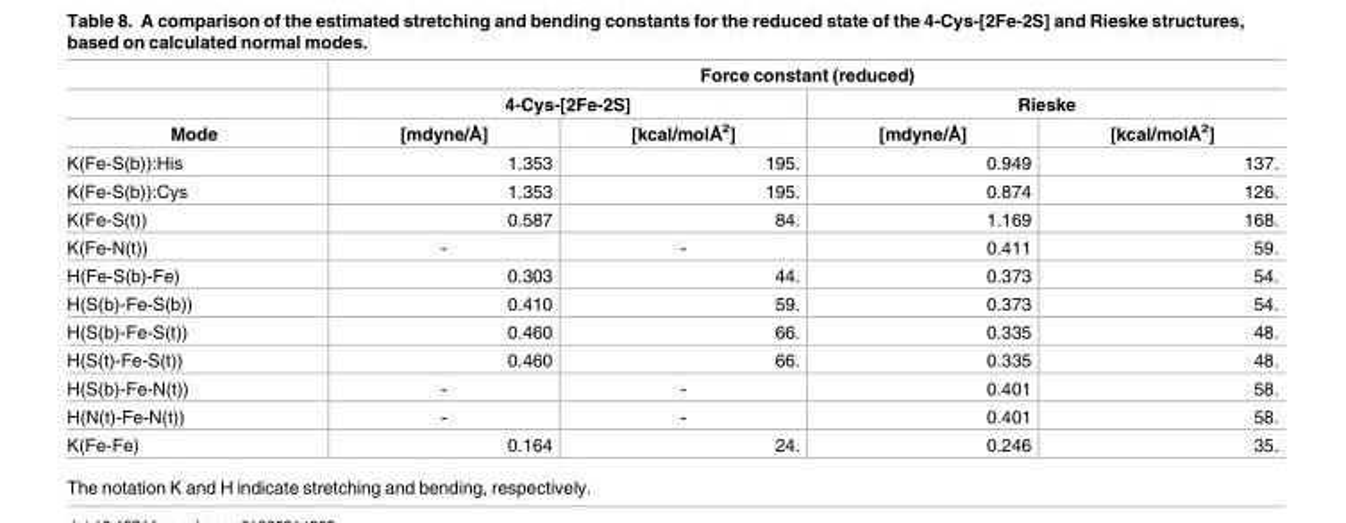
<table><thead><tr><td rowspan="3">Mode</td><td colspan="4">Force constant (reduced)</td></tr><tr><td colspan="2">4-Cys-[2Fe-2S]</td><td colspan="2">Rieske</td></tr><tr><td>[mdyne/Å]</td><td>[kcal/molÅ<sup>2</sup>]</td><td>[mdyne/Å]</td><td>[kcal/molÅ<sup>2</sup>]</td></tr></thead><tbody><tr><td>K(Fe-S(b)):His</td><td>1.353</td><td>195.</td><td>0.949</td><td>137.</td></tr><tr><td>K(Fe-S(b)):Cys</td><td>1.353</td><td>195.</td><td>0.874</td><td>126.</td></tr><tr><td>K(Fe-S(t))</td><td>0.587</td><td>84.</td><td>1.169</td><td>168.</td></tr><tr><td>K(Fe-N(t))</td><td>-</td><td>-</td><td>0.411</td><td>59.</td></tr><tr><td>H(Fe-S(b)-Fe)</td><td>0.303</td><td>44.</td><td>0.373</td><td>54.</td></tr><tr><td>H(S(b)-Fe-S(b))</td><td>0.410</td><td>59.</td><td>0.373</td><td>54.</td></tr><tr><td>H(S(b)-Fe-S(t))</td><td>0.460</td><td>66.</td><td>0.335</td><td>48.</td></tr><tr><td>H(S(t)-Fe-S(t))</td><td>0.460</td><td>66.</td><td>0.335</td><td>48.</td></tr><tr><td>H(S(b)-Fe-N(t))</td><td>-</td><td>-</td><td>0.401</td><td>58.</td></tr><tr><td>H(N(t)-Fe-N(t))</td><td>-</td><td>-</td><td>0.401</td><td>58.</td></tr><tr><td>K(Fe-Fe)</td><td>0.164</td><td>24.</td><td>0.246</td><td>35.</td></tr></tbody></table>